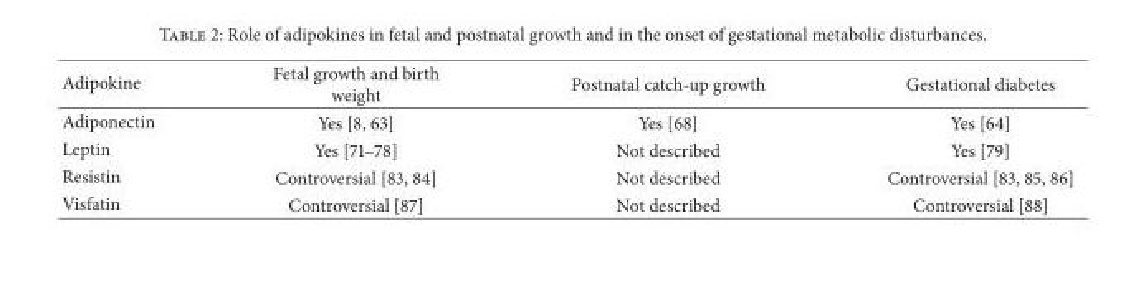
<table><thead><tr><td>Adipokine</td><td>Fetal growth and birth weight</td><td>Postnatal catch-up growth</td><td>Gestational diabetes</td></tr></thead><tbody><tr><td>Adiponectin</td><td>Yes [8, 63]</td><td>Yes [68]</td><td>Yes [64]</td></tr><tr><td>Leptin</td><td>Yes [71–78]</td><td>Not described</td><td>Yes [79]</td></tr><tr><td>Resistin</td><td>Controversial [83, 84]</td><td>Not described</td><td>Controversial [83, 85, 86]</td></tr><tr><td>Visfatin</td><td>Controversial [87]</td><td>Not described</td><td>Controversial [88]</td></tr></tbody></table>